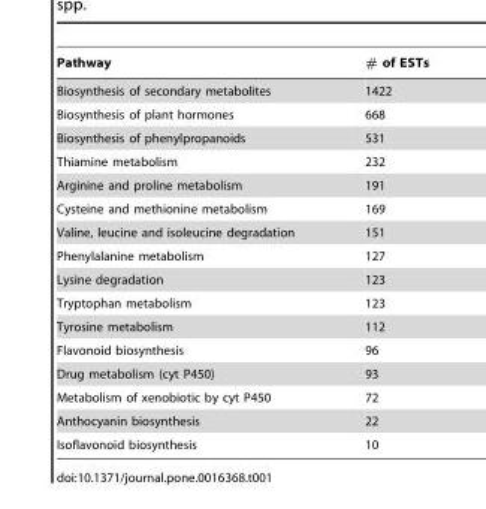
<table><thead><tr><td>Pathway</td><td># of ESTs</td></tr></thead><tbody><tr><td>Biosynthesis of secondary metabolites</td><td>1422</td></tr><tr><td>Biosynthesis of plant hormones</td><td>668</td></tr><tr><td>Biosynthesis of phenylpropanoids</td><td>531</td></tr><tr><td>Thiamine metabolism</td><td>232</td></tr><tr><td>Arginine and proline metabolism</td><td>191</td></tr><tr><td>Cysteine and methionine metabolism</td><td>169</td></tr><tr><td>Valine, leucine and isoleucine degradation</td><td>151</td></tr><tr><td>Phenylalanine metabolism</td><td>127</td></tr><tr><td>Lysine degradation</td><td>123</td></tr><tr><td>Tryptophan metabolism</td><td>123</td></tr><tr><td>Tyrosine metabolism</td><td>112</td></tr><tr><td>Flavonoid biosynthesis</td><td>96</td></tr><tr><td>Drug metabolism (cyt P450)</td><td>93</td></tr><tr><td>Metabolism of xenobiotic by cyt P450</td><td>72</td></tr><tr><td>Anthocyanin biosynthesis</td><td>22</td></tr><tr><td>Isoflavonoid biosynthesis</td><td>10</td></tr></tbody></table>